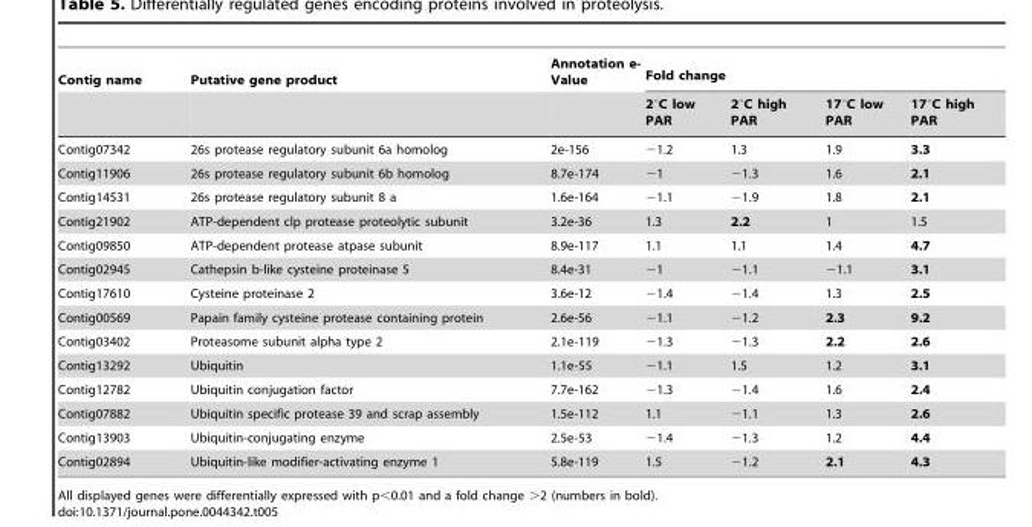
<table><thead><tr><td rowspan="2">Contig name</td><td rowspan="2">Putative gene product</td><td rowspan="2">Annotation e- Value</td><td colspan="4">Fold change</td></tr><tr><td>2°C low PAR</td><td>2°C high PAR</td><td>17°C low PAR</td><td>17°C high PAR</td></tr></thead><tbody><tr><td>Contig07342</td><td>26s protease regulatory subunit 6a homolog</td><td>2e-156</td><td>−1.2</td><td>1.3</td><td>1.9</td><td>3.3</td></tr><tr><td>Contig11906</td><td>26s protease regulatory subunit 6b homolog</td><td>8.7e-174</td><td>−1</td><td>−1.3</td><td>1.6</td><td>2.1</td></tr><tr><td>Contig14531</td><td>26s protease regulatory subunit 8 a</td><td>1.6e-164</td><td>−1.1</td><td>−1.9</td><td>1.8</td><td>2.1</td></tr><tr><td>Contig21902</td><td>ATP-dependent clp protease proteolytic subunit</td><td>3.2e-36</td><td>1.3</td><td>2.2</td><td>1</td><td>1.5</td></tr><tr><td>Contig09850</td><td>ATP-dependent protease atpase subunit</td><td>8.9e-117</td><td>1.1</td><td>1.1</td><td>1.4</td><td>4.7</td></tr><tr><td>Contig02945</td><td>Cathepsin b-like cysteine proteinase 5</td><td>8.4e-31</td><td>−1</td><td>−1.1</td><td>−1.1</td><td>3.1</td></tr><tr><td>Contig17610</td><td>Cysteine proteinase 2</td><td>3.6e-12</td><td>−1.4</td><td>−1.4</td><td>1.3</td><td>2.5</td></tr><tr><td>Contig00569</td><td>Papain family cysteine protease containing protein</td><td>2.6e-56</td><td>−1.1</td><td>−1.2</td><td>2.3</td><td>9.2</td></tr><tr><td>Contig03402</td><td>Proteasome subunit alpha type 2</td><td>2.1e-119</td><td>−1.3</td><td>−1.3</td><td>2.2</td><td>2.6</td></tr><tr><td>Contig13292</td><td>Ubiquitin</td><td>1.1e-55</td><td>−1.1</td><td>1.5</td><td>1.2</td><td>3.1</td></tr><tr><td>Contig12782</td><td>Ubiquitin conjugation factor</td><td>7.7e-162</td><td>−1.3</td><td>−1.4</td><td>1.6</td><td>2.4</td></tr><tr><td>Contig07882</td><td>Ubiquitin specific protease 39 and scrap assembly</td><td>1.5e-112</td><td>1.1</td><td>−1.1</td><td>1.3</td><td>2.6</td></tr><tr><td>Contig13903</td><td>Ubiquitin-conjugating enzyme</td><td>2.5e-53</td><td>−1.4</td><td>−1.3</td><td>1.2</td><td>4.4</td></tr><tr><td>Contig02894</td><td>Ubiquitin-like modifier-activating enzyme 1</td><td>5.8e-119</td><td>1.5</td><td>−1.2</td><td>2.1</td><td>4.3</td></tr></tbody></table>